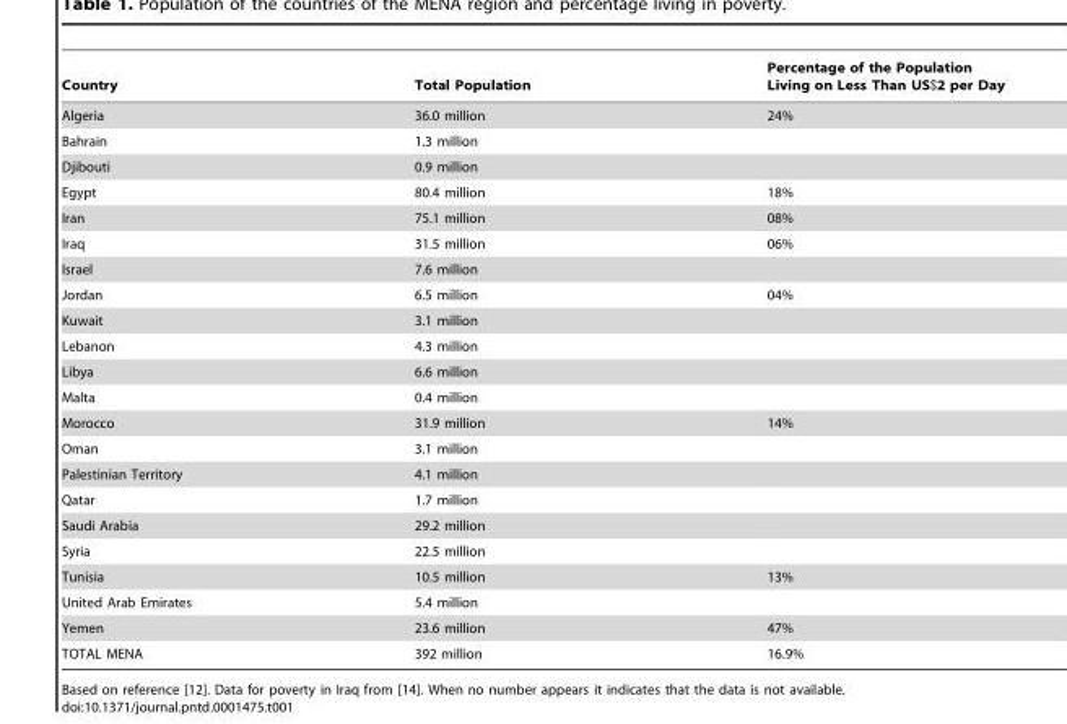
<table><thead><tr><td>Country</td><td>Total Population</td><td>Percentage of the Population Living on Less Than US$2 per Day</td></tr></thead><tbody><tr><td>Algeria</td><td>36.0 million</td><td>24%</td></tr><tr><td>Bahrain</td><td>1.3 million</td><td></td></tr><tr><td>Djibouti</td><td>0.9 million</td><td></td></tr><tr><td>Egypt</td><td>80.4 million</td><td>18%</td></tr><tr><td>Iran</td><td>75.1 million</td><td>08%</td></tr><tr><td>Iraq</td><td>31.5 million</td><td>06%</td></tr><tr><td>Israel</td><td>7.6 million</td><td></td></tr><tr><td>Jordan</td><td>6.5 million</td><td>04%</td></tr><tr><td>Kuwait</td><td>3.1 million</td><td></td></tr><tr><td>Lebanon</td><td>4.3 million</td><td></td></tr><tr><td>Libya</td><td>6.6 million</td><td></td></tr><tr><td>Malta</td><td>0.4 million</td><td></td></tr><tr><td>Morocco</td><td>31.9 million</td><td>14%</td></tr><tr><td>Oman</td><td>3.1 million</td><td></td></tr><tr><td>Palestinian Territory</td><td>4.1 million</td><td></td></tr><tr><td>Qatar</td><td>1.7 million</td><td></td></tr><tr><td>Saudi Arabia</td><td>29.2 million</td><td></td></tr><tr><td>Syria</td><td>22.5 million</td><td></td></tr><tr><td>Tunisia</td><td>10.5 million</td><td>13%</td></tr><tr><td>United Arab Emirates</td><td>5.4 million</td><td></td></tr><tr><td>Yemen</td><td>23.6 million</td><td>47%</td></tr><tr><td>TOTAL MENA</td><td>392 million</td><td>16.9%</td></tr></tbody></table>